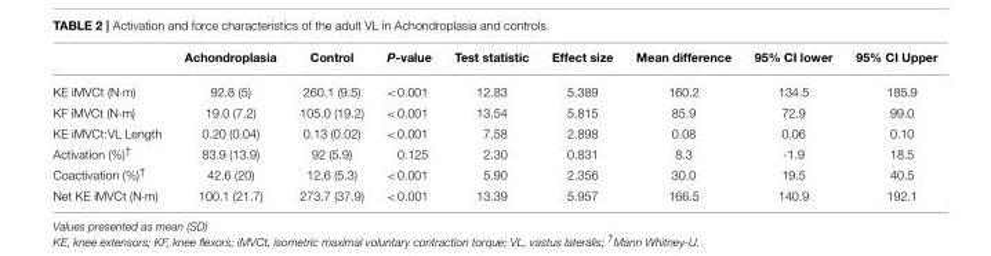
<table><thead><tr><td></td><td>Achondroplasia</td><td>Control</td><td>P-value</td><td>Test statistic</td><td>Effect size</td><td>Mean difference</td><td>95% CI lower</td><td>95% CI Upper</td></tr></thead><tbody><tr><td>KE iMVCt (N·m)</td><td>92.8 (5)</td><td>260.1 (9.5)</td><td>&lt;0.001</td><td>12.83</td><td>5.389</td><td>160.2</td><td>134.5</td><td>185.9</td></tr><tr><td>KF iMVCt (N·m)</td><td>19.0 (7.2)</td><td>105.0 (19.2)</td><td>&lt;0.001</td><td>13.54</td><td>5.815</td><td>85.9</td><td>72.9</td><td>99.0</td></tr><tr><td>KE iMVCt:VL Length</td><td>0.20 (0.04)</td><td>0.13 (0.02)</td><td>&lt;0.001</td><td>7.58</td><td>2.898</td><td>0.08</td><td>0.06</td><td>0.10</td></tr><tr><td>Activation (%)<sup>†</sup></td><td>83.9 (13.9)</td><td>92 (5.9)</td><td>0.125</td><td>2.30</td><td>0.831</td><td>8.3</td><td>-1.9</td><td>18.5</td></tr><tr><td>Coactivation (%)<sup>†</sup></td><td>42.6 (20)</td><td>12.6 (5.3)</td><td>&lt;0.001</td><td>5.90</td><td>2.356</td><td>30.0</td><td>19.5</td><td>40.5</td></tr><tr><td>Net KE iMVCt (N·m)</td><td>100.1 (21.7)</td><td>273.7 (37.9)</td><td>&lt;0.001</td><td>13.39</td><td>5.957</td><td>166.5</td><td>140.9</td><td>192.1</td></tr></tbody></table>